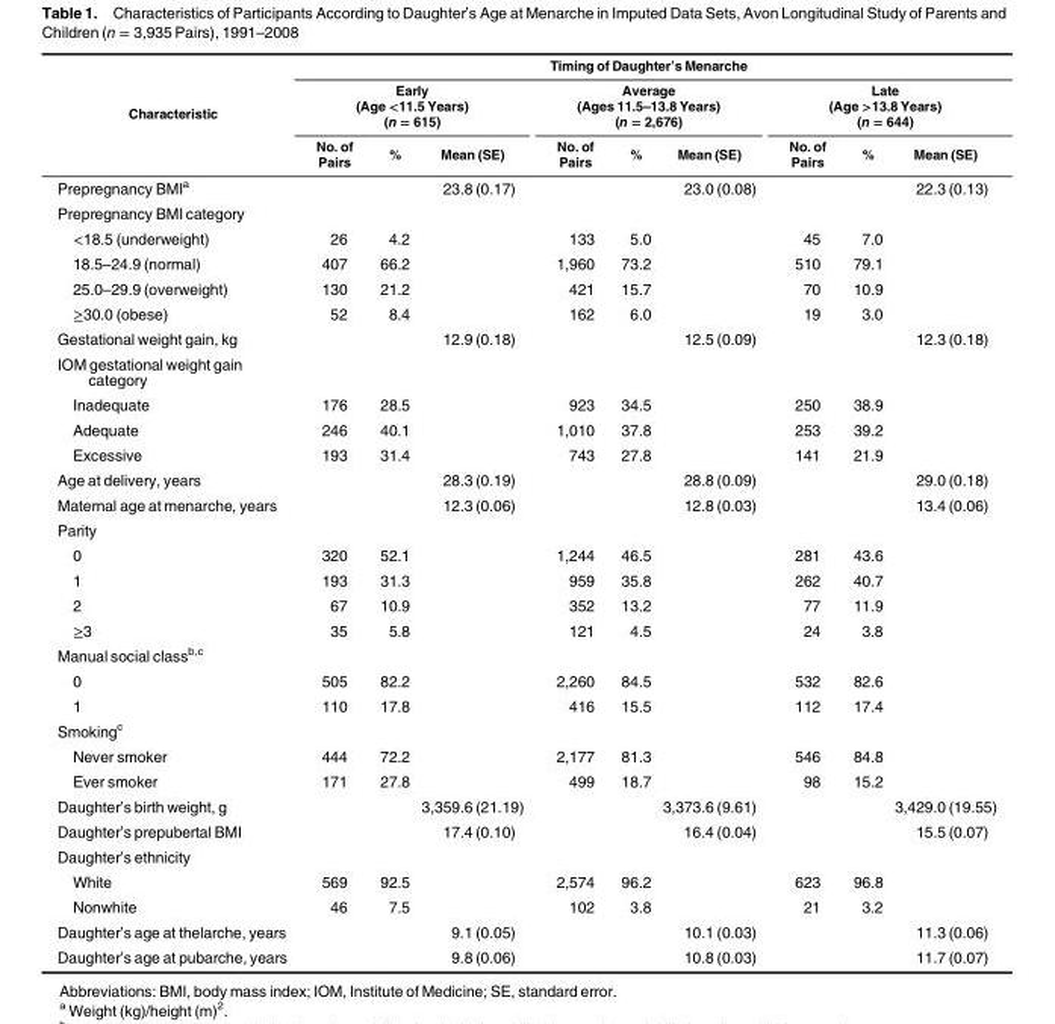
<table><thead><tr><td rowspan="3">Characteristic</td><td colspan="9">Timing of Daughter’s Menarche</td></tr><tr><td colspan="3">Early (Age &lt;11.5 Years) (n = 615)</td><td colspan="3">Average (Ages 11.5–13.8 Years) (n = 2,676)</td><td colspan="3">Late (Age &gt;13.8 Years) (n = 644)</td></tr><tr><td>No. of Pairs</td><td>%</td><td>Mean (SE)</td><td>No. of Pairs</td><td>%</td><td>Mean (SE)</td><td>No. of Pairs</td><td>%</td><td>Mean (SE)</td></tr></thead><tbody><tr><td>Prepregnancy BMI<sup>a</sup></td><td></td><td></td><td>23.8 (0.17)</td><td></td><td></td><td>23.0 (0.08)</td><td></td><td></td><td>22.3 (0.13)</td></tr><tr><td colspan="10">Prepregnancy BMI category</td></tr><tr><td>&lt;18.5 (underweight)</td><td>26</td><td>4.2</td><td></td><td>133</td><td>5.0</td><td></td><td>45</td><td>7.0</td><td></td></tr><tr><td>18.5–24.9 (normal)</td><td>407</td><td>66.2</td><td></td><td>1,960</td><td>73.2</td><td></td><td>510</td><td>79.1</td><td></td></tr><tr><td>25.0–29.9 (overweight)</td><td>130</td><td>21.2</td><td></td><td>421</td><td>15.7</td><td></td><td>70</td><td>10.9</td><td></td></tr><tr><td>≥30.0 (obese)</td><td>52</td><td>8.4</td><td></td><td>162</td><td>6.0</td><td></td><td>19</td><td>3.0</td><td></td></tr><tr><td>Gestational weight gain, kg</td><td></td><td></td><td>12.9 (0.18)</td><td></td><td></td><td>12.5 (0.09)</td><td></td><td></td><td>12.3 (0.18)</td></tr><tr><td colspan="10">IOM gestational weight gain category</td></tr><tr><td>Inadequate</td><td>176</td><td>28.5</td><td></td><td>923</td><td>34.5</td><td></td><td>250</td><td>38.9</td><td></td></tr><tr><td>Adequate</td><td>246</td><td>40.1</td><td></td><td>1,010</td><td>37.8</td><td></td><td>253</td><td>39.2</td><td></td></tr><tr><td>Excessive</td><td>193</td><td>31.4</td><td></td><td>743</td><td>27.8</td><td></td><td>141</td><td>21.9</td><td></td></tr><tr><td>Age at delivery, years</td><td></td><td></td><td>28.3 (0.19)</td><td></td><td></td><td>28.8 (0.09)</td><td></td><td></td><td>29.0 (0.18)</td></tr><tr><td>Maternal age at menarche, years</td><td></td><td></td><td>12.3 (0.06)</td><td></td><td></td><td>12.8 (0.03)</td><td></td><td></td><td>13.4 (0.06)</td></tr><tr><td colspan="10">Parity</td></tr><tr><td>0</td><td>320</td><td>52.1</td><td></td><td>1,244</td><td>46.5</td><td></td><td>281</td><td>43.6</td><td></td></tr><tr><td>1</td><td>193</td><td>31.3</td><td></td><td>959</td><td>35.8</td><td></td><td>262</td><td>40.7</td><td></td></tr><tr><td>2</td><td>67</td><td>10.9</td><td></td><td>352</td><td>13.2</td><td></td><td>77</td><td>11.9</td><td></td></tr><tr><td>≥3</td><td>35</td><td>5.8</td><td></td><td>121</td><td>4.5</td><td></td><td>24</td><td>3.8</td><td></td></tr><tr><td colspan="10">Manual social class<sup>b,c</sup></td></tr><tr><td>0</td><td>505</td><td>82.2</td><td></td><td>2,260</td><td>84.5</td><td></td><td>532</td><td>82.6</td><td></td></tr><tr><td>1</td><td>110</td><td>17.8</td><td></td><td>416</td><td>15.5</td><td></td><td>112</td><td>17.4</td><td></td></tr><tr><td colspan="10">Smoking<sup>c</sup></td></tr><tr><td>Never smoker</td><td>444</td><td>72.2</td><td></td><td>2,177</td><td>81.3</td><td></td><td>546</td><td>84.8</td><td></td></tr><tr><td>Ever smoker</td><td>171</td><td>27.8</td><td></td><td>499</td><td>18.7</td><td></td><td>98</td><td>15.2</td><td></td></tr><tr><td>Daughter’s birth weight, g</td><td></td><td></td><td>3,359.6 (21.19)</td><td></td><td></td><td>3,373.6 (9.61)</td><td></td><td></td><td>3,429.0 (19.55)</td></tr><tr><td>Daughter’s prepubertal BMI</td><td></td><td></td><td>17.4 (0.10)</td><td></td><td></td><td>16.4 (0.04)</td><td></td><td></td><td>15.5 (0.07)</td></tr><tr><td colspan="10">Daughter’s ethnicity</td></tr><tr><td>White</td><td>569</td><td>92.5</td><td></td><td>2,574</td><td>96.2</td><td></td><td>623</td><td>96.8</td><td></td></tr><tr><td>Nonwhite</td><td>46</td><td>7.5</td><td></td><td>102</td><td>3.8</td><td></td><td>21</td><td>3.2</td><td></td></tr><tr><td>Daughter’s age at thelarche, years</td><td></td><td></td><td>9.1 (0.05)</td><td></td><td></td><td>10.1 (0.03)</td><td></td><td></td><td>11.3 (0.06)</td></tr><tr><td>Daughter’s age at pubarche, years</td><td></td><td></td><td>9.8 (0.06)</td><td></td><td></td><td>10.8 (0.03)</td><td></td><td></td><td>11.7 (0.07)</td></tr></tbody></table>